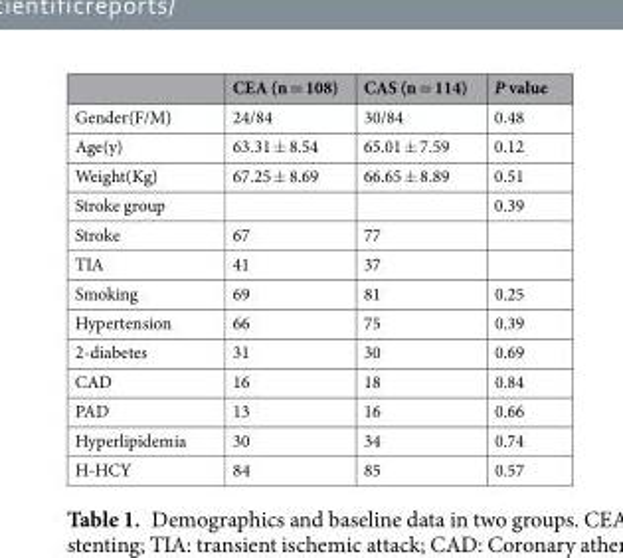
<table><thead><tr><td></td><td>CEA (n = 108)</td><td>CAS (n = 114)</td><td>P value</td></tr></thead><tbody><tr><td>Gender(F/M)</td><td>24/84</td><td>30/84</td><td>0.48</td></tr><tr><td>Age(y)</td><td>63.31 ± 8.54</td><td>65.01 ± 7.59</td><td>0.12</td></tr><tr><td>Weight(Kg)</td><td>67.25 ± 8.69</td><td>66.65 ± 8.89</td><td>0.51</td></tr><tr><td>Stroke group</td><td></td><td></td><td>0.39</td></tr><tr><td>Stroke</td><td>67</td><td>77</td><td></td></tr><tr><td>TIA</td><td>41</td><td>37</td><td></td></tr><tr><td>Smoking</td><td>69</td><td>81</td><td>0.25</td></tr><tr><td>Hypertension</td><td>66</td><td>75</td><td>0.39</td></tr><tr><td>2-diabetes</td><td>31</td><td>30</td><td>0.69</td></tr><tr><td>CAD</td><td>16</td><td>18</td><td>0.84</td></tr><tr><td>PAD</td><td>13</td><td>16</td><td>0.66</td></tr><tr><td>Hyperlipidemia</td><td>30</td><td>34</td><td>0.74</td></tr><tr><td>H-HCY</td><td>84</td><td>85</td><td>0.57</td></tr></tbody></table>